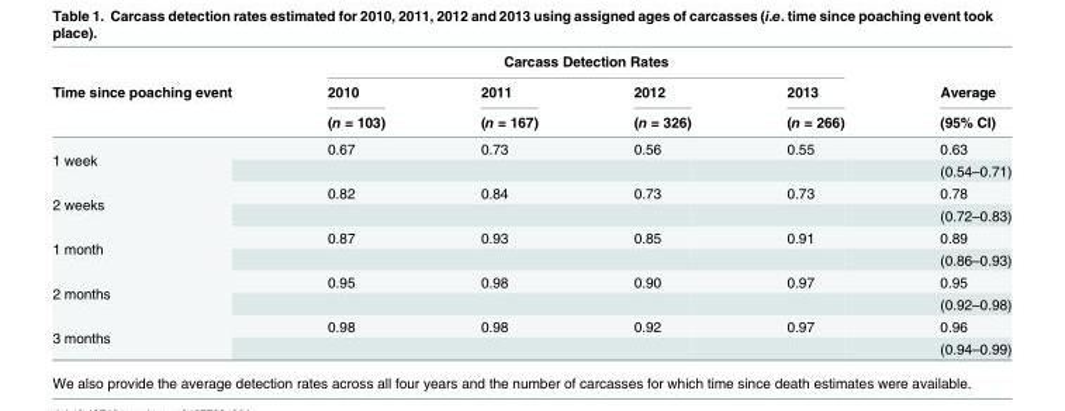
<table><thead><tr><td rowspan="3">Time since poaching event</td><td colspan="4">Carcass Detection Rates</td><td rowspan="3">Average (95% CI)</td></tr><tr><td rowspan="2">2010 (n = 103)</td><td rowspan="2">2011 (n = 167)</td><td rowspan="2">2012 (n = 326)</td><td rowspan="2">2013 (n = 266)</td></tr><tr></tr></thead><tbody><tr><td rowspan="2">1 week</td><td>0.67</td><td>0.73</td><td>0.56</td><td>0.55</td><td>0.63</td></tr><tr><td></td><td></td><td></td><td></td><td>(0.54–0.71)</td></tr><tr><td rowspan="2">2 weeks</td><td>0.82</td><td>0.84</td><td>0.73</td><td>0.73</td><td>0.78</td></tr><tr><td></td><td></td><td></td><td></td><td>(0.72–0.83)</td></tr><tr><td rowspan="2">1 month</td><td>0.87</td><td>0.93</td><td>0.85</td><td>0.91</td><td>0.89</td></tr><tr><td></td><td></td><td></td><td></td><td>(0.86–0.93)</td></tr><tr><td rowspan="2">2 months</td><td>0.95</td><td>0.98</td><td>0.90</td><td>0.97</td><td>0.95</td></tr><tr><td></td><td></td><td></td><td></td><td>(0.92–0.98)</td></tr><tr><td rowspan="2">3 months</td><td>0.98</td><td>0.98</td><td>0.92</td><td>0.97</td><td>0.96</td></tr><tr><td></td><td></td><td></td><td></td><td>(0.94–0.99)</td></tr></tbody></table>